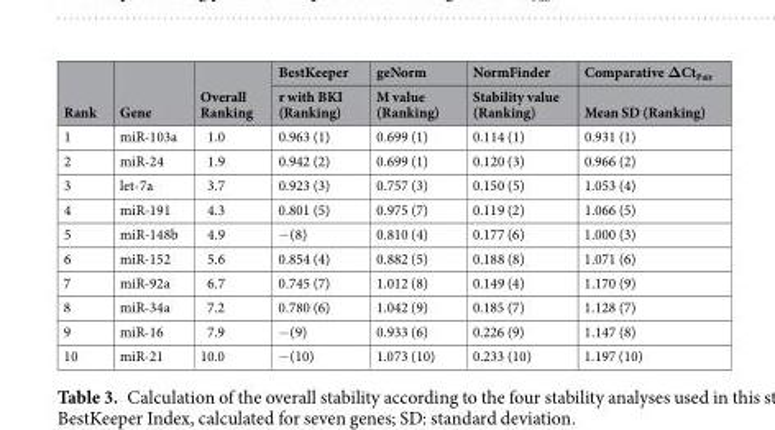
<table><thead><tr><td rowspan="2">Rank</td><td rowspan="2">Gene</td><td rowspan="2">Overall Ranking</td><td rowspan="2">BestKeeper r with BKI (Ranking)</td><td rowspan="2">geNorm M value (Ranking)</td><td rowspan="2">NormFinder Stability value (Ranking)</td><td rowspan="2">Comparative ΔCt<sub>Pair</sub> Mean SD (Ranking)</td></tr><tr></tr></thead><tbody><tr><td>1</td><td>miR-103a</td><td>1.0</td><td>0.963 (1)</td><td>0.699 (1)</td><td>0.114 (1)</td><td>0.931 (1)</td></tr><tr><td>2</td><td>miR-24</td><td>1.9</td><td>0.942 (2)</td><td>0.699 (1)</td><td>0.120 (3)</td><td>0.966 (2)</td></tr><tr><td>3</td><td>let-7a</td><td>3.7</td><td>0.923 (3)</td><td>0.757 (3)</td><td>0.150 (5)</td><td>1.053 (4)</td></tr><tr><td>4</td><td>miR-191</td><td>4.3</td><td>0.801 (5)</td><td>0.975 (7)</td><td>0.119 (2)</td><td>1.066 (5)</td></tr><tr><td>5</td><td>miR-148b</td><td>4.9</td><td>−(8)</td><td>0.810 (4)</td><td>0.177 (6)</td><td>1.000 (3)</td></tr><tr><td>6</td><td>miR-152</td><td>5.6</td><td>0.854 (4)</td><td>0.882 (5)</td><td>0.188 (8)</td><td>1.071 (6)</td></tr><tr><td>7</td><td>miR-92a</td><td>6.7</td><td>0.745 (7)</td><td>1.012 (8)</td><td>0.149 (4)</td><td>1.170 (9)</td></tr><tr><td>8</td><td>miR-34a</td><td>7.2</td><td>0.780 (6)</td><td>1.042 (9)</td><td>0.185 (7)</td><td>1.128 (7)</td></tr><tr><td>9</td><td>miR-16</td><td>7.9</td><td>−(9)</td><td>0.933 (6)</td><td>0.226 (9)</td><td>1.147 (8)</td></tr><tr><td>10</td><td>miR-21</td><td>10.0</td><td>−(10)</td><td>1.073 (10)</td><td>0.233 (10)</td><td>1.197 (10)</td></tr></tbody></table>